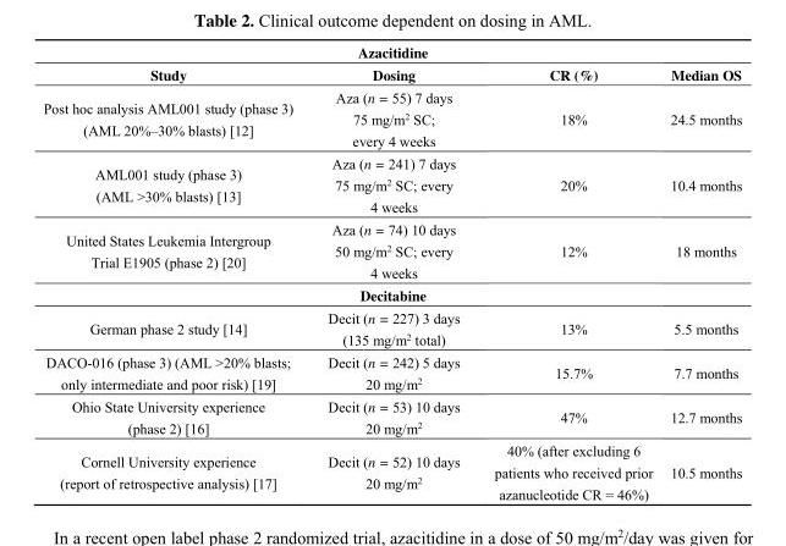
<table><thead><tr><td colspan="4">Azacitidine</td></tr><tr><td>Study</td><td>Dosing</td><td>CR (%)</td><td>Median OS</td></tr></thead><tbody><tr><td>Post hoc analysis AML001 study (phase 3) (AML 20%–30% blasts) [12]</td><td>Aza (n = 55) 7 days 75 mg/m<sup>2</sup> SC; every 4 weeks</td><td>18%</td><td>24.5 months</td></tr><tr><td>AML001 study (phase 3) (AML &gt;30% blasts) [13]</td><td>Aza (n = 241) 7 days 75 mg/m<sup>2</sup> SC; every 4 weeks</td><td>20%</td><td>10.4 months</td></tr><tr><td>United States Leukemia Intergroup Trial E1905 (phase 2) [20]</td><td>Aza (n = 74) 10 days 50 mg/m<sup>2</sup> SC; every 4 weeks</td><td>12%</td><td>18 months</td></tr><tr><td colspan="4">Decitabine</td></tr><tr><td>German phase 2 study [14]</td><td>Decit (n = 227) 3 days (135 mg/m<sup>2</sup> total)</td><td>13%</td><td>5.5 months</td></tr><tr><td>DACO-016 (phase 3) (AML &gt;20% blasts; only intermediate and poor risk) [19]</td><td>Decit (n = 242) 5 days 20 mg/m<sup>2</sup></td><td>15.7%</td><td>7.7 months</td></tr><tr><td>Ohio State University experience (phase 2) [16]</td><td>Decit (n = 53) 10 days 20 mg/m<sup>2</sup></td><td>47%</td><td>12.7 months</td></tr><tr><td>Cornell University experience (report of retrospective analysis) [17]</td><td>Decit (n = 52) 10 days 20 mg/m<sup>2</sup></td><td>40% (after excluding 6 patients who received prior azanucleotide CR = 46%)</td><td>10.5 months</td></tr></tbody></table>